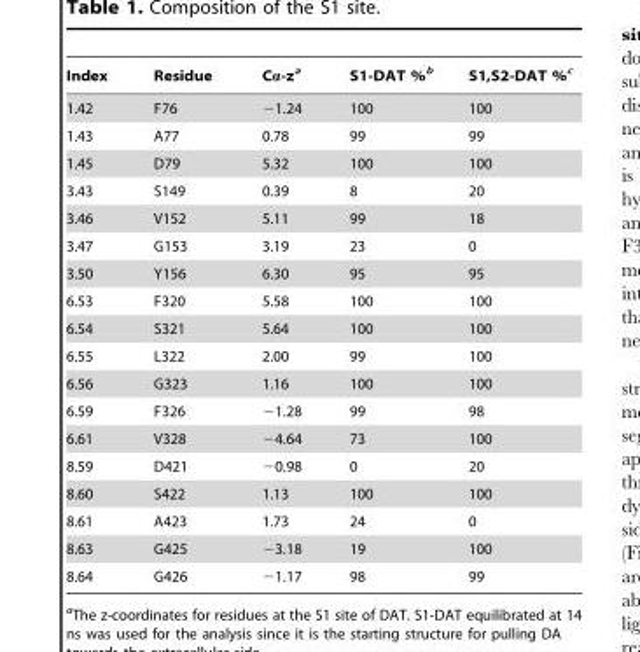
<table><thead><tr><td>Index</td><td>Residue</td><td>Cα-z<sup>a</sup></td><td>S1-DAT %<sup>b</sup></td><td>S1,S2-DAT %<sup>c</sup></td></tr></thead><tbody><tr><td>1.42</td><td>F76</td><td>−1.24</td><td>100</td><td>100</td></tr><tr><td>1.43</td><td>A77</td><td>0.78</td><td>99</td><td>99</td></tr><tr><td>1.45</td><td>D79</td><td>5.32</td><td>100</td><td>100</td></tr><tr><td>3.43</td><td>S149</td><td>0.39</td><td>8</td><td>20</td></tr><tr><td>3.46</td><td>V152</td><td>5.11</td><td>99</td><td>18</td></tr><tr><td>3.47</td><td>G153</td><td>3.19</td><td>23</td><td>0</td></tr><tr><td>3.50</td><td>Y156</td><td>6.30</td><td>95</td><td>95</td></tr><tr><td>6.53</td><td>F320</td><td>5.58</td><td>100</td><td>100</td></tr><tr><td>6.54</td><td>S321</td><td>5.64</td><td>100</td><td>100</td></tr><tr><td>6.55</td><td>L322</td><td>2.00</td><td>99</td><td>100</td></tr><tr><td>6.56</td><td>G323</td><td>1.16</td><td>100</td><td>100</td></tr><tr><td>6.59</td><td>F326</td><td>−1.28</td><td>99</td><td>98</td></tr><tr><td>6.61</td><td>V328</td><td>−4.64</td><td>73</td><td>100</td></tr><tr><td>8.59</td><td>D421</td><td>−0.98</td><td>0</td><td>20</td></tr><tr><td>8.60</td><td>S422</td><td>1.13</td><td>100</td><td>100</td></tr><tr><td>8.61</td><td>A423</td><td>1.73</td><td>24</td><td>0</td></tr><tr><td>8.63</td><td>G425</td><td>−3.18</td><td>19</td><td>100</td></tr><tr><td>8.64</td><td>G426</td><td>−1.17</td><td>98</td><td>99</td></tr></tbody></table>